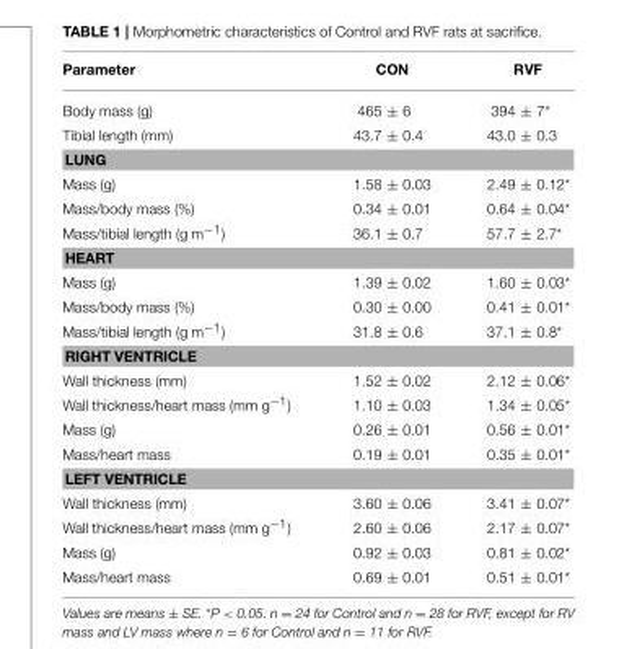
<table><thead><tr><td>Parameter</td><td>CON</td><td>RVF</td></tr></thead><tbody><tr><td>Body mass (g)</td><td>465 ± 6</td><td>394 ± 7*</td></tr><tr><td>Tibial length (mm)</td><td>43.7 ± 0.4</td><td>43.0 ± 0.3</td></tr><tr><td colspan="3">LUNG</td></tr><tr><td>Mass (g)</td><td>1.58 ± 0.03</td><td>2.49 ± 0.12*</td></tr><tr><td>Mass/body mass (%)</td><td>0.34 ± 0.01</td><td>0.64 ± 0.04*</td></tr><tr><td>Mass/tibial length (g m<sup>−1</sup>)</td><td>36.1 ± 0.7</td><td>57.7 ± 2.7*</td></tr><tr><td colspan="3">HEART</td></tr><tr><td>Mass (g)</td><td>1.39 ± 0.02</td><td>1.60 ± 0.03*</td></tr><tr><td>Mass/body mass (%)</td><td>0.30 ± 0.00</td><td>0.41 ± 0.01*</td></tr><tr><td>Mass/tibial length (g m<sup>−1</sup>)</td><td>31.8 ± 0.6</td><td>37.1 ± 0.8*</td></tr><tr><td colspan="3">RIGHT VENTRICLE</td></tr><tr><td>Wall thickness (mm)</td><td>1.52 ± 0.02</td><td>2.12 ± 0.06*</td></tr><tr><td>Wall thickness/heart mass (mm g<sup>−1</sup>)</td><td>1.10 ± 0.03</td><td>1.34 ± 0.05*</td></tr><tr><td>Mass (g)</td><td>0.26 ± 0.01</td><td>0.56 ± 0.01*</td></tr><tr><td>Mass/heart mass</td><td>0.19 ± 0.01</td><td>0.35 ± 0.01*</td></tr><tr><td colspan="3">LEFT VENTRICLE</td></tr><tr><td>Wall thickness (mm)</td><td>3.60 ± 0.06</td><td>3.41 ± 0.07*</td></tr><tr><td>Wall thickness/heart mass (mm g<sup>−1</sup>)</td><td>2.60 ± 0.06</td><td>2.17 ± 0.07*</td></tr><tr><td>Mass (g)</td><td>0.92 ± 0.03</td><td>0.81 ± 0.02*</td></tr><tr><td>Mass/heart mass</td><td>0.69 ± 0.01</td><td>0.51 ± 0.01*</td></tr></tbody></table>